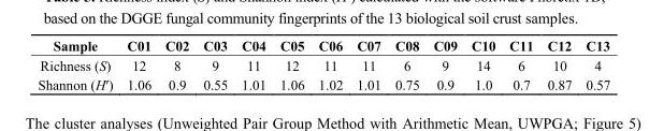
<table><thead><tr><td>Sample</td><td>C01</td><td>C02</td><td>C03</td><td>C04</td><td>C05</td><td>C06</td><td>C07</td><td>C08</td><td>C09</td><td>C10</td><td>C11</td><td>C12</td><td>C13</td></tr></thead><tbody><tr><td>Richness (S)</td><td>12</td><td>8</td><td>9</td><td>11</td><td>12</td><td>11</td><td>11</td><td>6</td><td>9</td><td>14</td><td>6</td><td>10</td><td>4</td></tr><tr><td>Shannon (Hʹ)</td><td>1.06</td><td>0.9</td><td>0.55</td><td>1.01</td><td>1.06</td><td>1.02</td><td>1.01</td><td>0.75</td><td>0.9</td><td>1.0</td><td>0.7</td><td>0.87</td><td>0.57</td></tr></tbody></table>